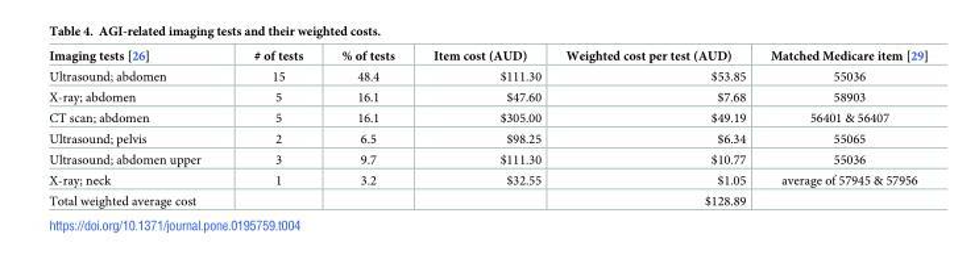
<table><thead><tr><td>Imaging tests [26]</td><td># of tests</td><td>% of tests</td><td>Item cost (AUD)</td><td>Weighted cost per test (AUD)</td><td>Matched Medicare item [29]</td></tr></thead><tbody><tr><td>Ultrasound; abdomen</td><td>15</td><td>48.4</td><td>$111.30</td><td>$53.85</td><td>55036</td></tr><tr><td>X-ray; abdomen</td><td>5</td><td>16.1</td><td>$47.60</td><td>$7.68</td><td>58903</td></tr><tr><td>CT scan; abdomen</td><td>5</td><td>16.1</td><td>$305.00</td><td>$49.19</td><td>56401 &amp; 56407</td></tr><tr><td>Ultrasound; pelvis</td><td>2</td><td>6.5</td><td>$98.25</td><td>$6.34</td><td>55065</td></tr><tr><td>Ultrasound; abdomen upper</td><td>3</td><td>9.7</td><td>$111.30</td><td>$10.77</td><td>55036</td></tr><tr><td>X-ray; neck</td><td>1</td><td>3.2</td><td>$32.55</td><td>$1.05</td><td>average of 57945 &amp; 57956</td></tr><tr><td>Total weighted average cost</td><td></td><td></td><td></td><td>$128.89</td><td></td></tr></tbody></table>